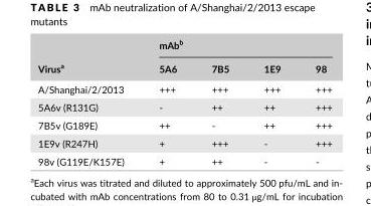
<table><thead><tr><td rowspan="2">Virus<sup>a</sup></td><td colspan="4">mAb<sup>b</sup></td></tr><tr><td>5A6</td><td>7B5</td><td>1E9</td><td>98</td></tr></thead><tbody><tr><td>A/Shanghai/2/2013</td><td>+++</td><td>+++</td><td>+++</td><td>+++</td></tr><tr><td>5A6v (R131G)</td><td>-</td><td>++</td><td>++</td><td>+++</td></tr><tr><td>7B5v (G189E)</td><td>++</td><td>-</td><td>++</td><td>+++</td></tr><tr><td>1E9v (R247H)</td><td>+</td><td>+++</td><td>-</td><td>+++</td></tr><tr><td>98v (G119E/K157E)</td><td>+</td><td>++</td><td>-</td><td>-</td></tr></tbody></table>